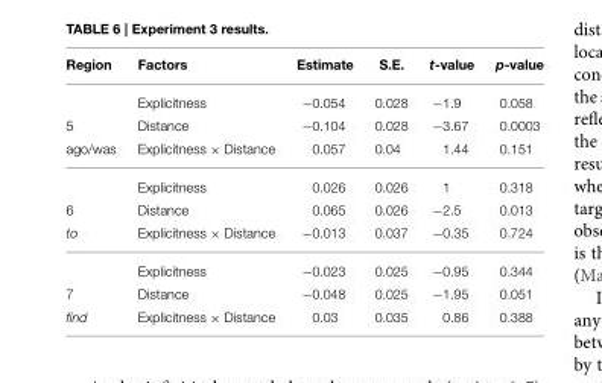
<table><thead><tr><td>Region</td><td>Factors</td><td>Estimate</td><td>S.E.</td><td>t-value</td><td>p-value</td></tr></thead><tbody><tr><td></td><td>Explicitness</td><td>−0.054</td><td>0.028</td><td>−1.9</td><td>0.058</td></tr><tr><td>5</td><td>Distance</td><td>−0.104</td><td>0.028</td><td>−3.67</td><td>0.0003</td></tr><tr><td rowspan="2">ago/was</td><td>Explicitness × Distance</td><td>0.057</td><td>0.04</td><td>1.44</td><td>0.151</td></tr><tr><td>Explicitness</td><td>0.026</td><td>0.026</td><td>1</td><td>0.318</td></tr><tr><td>6</td><td>Distance</td><td>0.065</td><td>0.026</td><td>−2.5</td><td>0.013</td></tr><tr><td rowspan="2">to</td><td>Explicitness × Distance</td><td>−0.013</td><td>0.037</td><td>−0.35</td><td>0.724</td></tr><tr><td>Explicitness</td><td>−0.023</td><td>0.025</td><td>−0.95</td><td>0.344</td></tr><tr><td>7</td><td>Distance</td><td>−0.048</td><td>0.025</td><td>−1.95</td><td>0.051</td></tr><tr><td>find</td><td>Explicitness × Distance</td><td>0.03</td><td>0.035</td><td>0.86</td><td>0.388</td></tr></tbody></table>